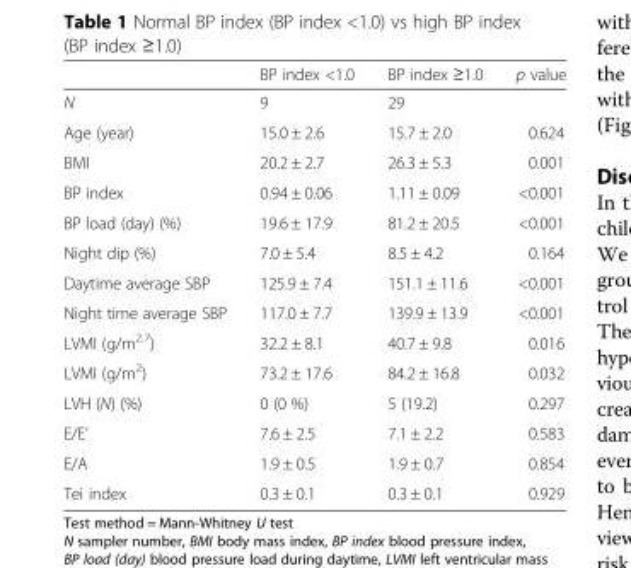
<table><thead><tr><td></td><td>BP index &lt;1.0</td><td>BP index ≥1.0</td><td>p value</td></tr></thead><tbody><tr><td>N</td><td>9</td><td>29</td><td></td></tr><tr><td>Age (year)</td><td>15.0 ± 2.6</td><td>15.7 ± 2.0</td><td>0.624</td></tr><tr><td>BMI</td><td>20.2 ± 2.7</td><td>26.3 ± 5.3</td><td>0.001</td></tr><tr><td>BP index</td><td>0.94 ± 0.06</td><td>1.11 ± 0.09</td><td>&lt;0.001</td></tr><tr><td>BP load (day) (%)</td><td>19.6 ± 17.9</td><td>81.2 ± 20.5</td><td>&lt;0.001</td></tr><tr><td>Night dip (%)</td><td>7.0 ± 5.4</td><td>8.5 ± 4.2</td><td>0.164</td></tr><tr><td>Daytime average SBP</td><td>125.9 ± 7.4</td><td>151.1 ± 11.6</td><td>&lt;0.001</td></tr><tr><td>Night time average SBP</td><td>117.0 ± 7.7</td><td>139.9 ± 13.9</td><td>&lt;0.001</td></tr><tr><td>LVMI (g/m<sup>2.7</sup>)</td><td>32.2 ± 8.1</td><td>40.7 ± 9.8</td><td>0.016</td></tr><tr><td>LVMI (g/m<sup>2</sup>)</td><td>73.2 ± 17.6</td><td>84.2 ± 16.8</td><td>0.032</td></tr><tr><td>LVH (N) (%)</td><td>0 (0 %)</td><td>5 (19.2)</td><td>0.297</td></tr><tr><td>E/E’</td><td>7.6 ± 2.5</td><td>7.1 ± 2.2</td><td>0.583</td></tr><tr><td>E/A</td><td>1.9 ± 0.5</td><td>1.9 ± 0.7</td><td>0.854</td></tr><tr><td>Tei index</td><td>0.3 ± 0.1</td><td>0.3 ± 0.1</td><td>0.929</td></tr></tbody></table>